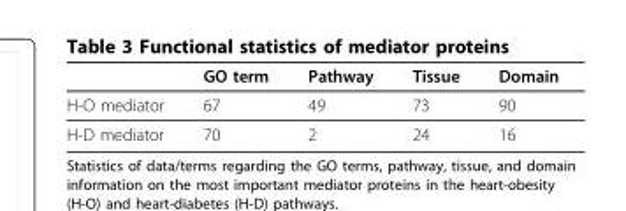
<table><thead><tr><td></td><td>GO term</td><td>Pathway</td><td>Tissue</td><td>Domain</td></tr></thead><tbody><tr><td>H-O mediator</td><td>67</td><td>49</td><td>73</td><td>90</td></tr><tr><td>H-D mediator</td><td>70</td><td>2</td><td>24</td><td>16</td></tr></tbody></table>